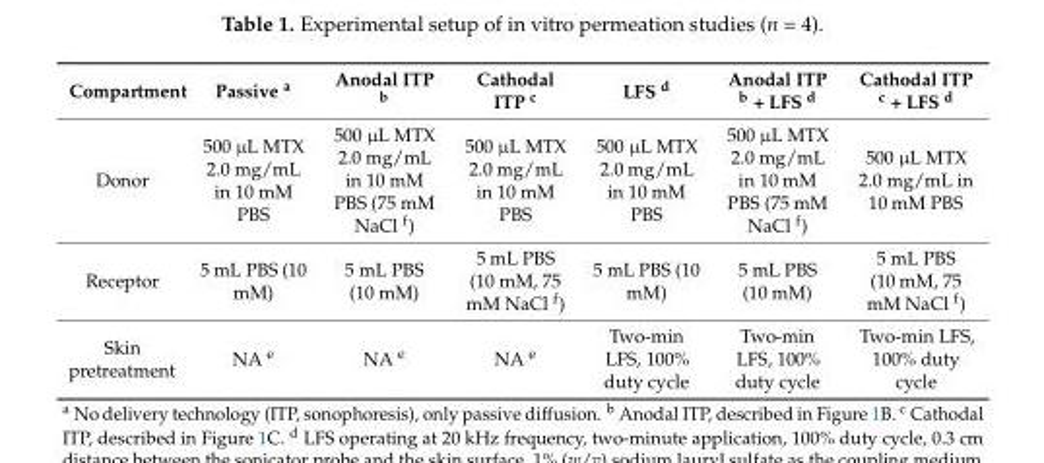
<table><thead><tr><td>Compartment</td><td>Passive <sup>a</sup></td><td>Anodal ITP <sup>b</sup></td><td>Cathodal ITP <sup>c</sup></td><td>LFS <sup>d</sup></td><td>Anodal ITP <sup>b</sup> + LFS <sup>d</sup></td><td>Cathodal ITP <sup>c</sup> + LFS <sup>d</sup></td></tr></thead><tbody><tr><td>Donor</td><td>500 µL MTX 2.0 mg/mL in 10 mM PBS</td><td>500 µL MTX 2.0 mg/mL in 10 mM PBS (75 mM NaCl <sup>f</sup>)</td><td>500 µL MTX 2.0 mg/mL in 10 mM PBS</td><td>500 µL MTX 2.0 mg/mL in 10 mM PBS</td><td>500 µL MTX 2.0 mg/mL in 10 mM PBS (75 mM NaCl <sup>f</sup>)</td><td>500 µL MTX 2.0 mg/mL in 10 mM PBS</td></tr><tr><td>Receptor</td><td>5 mL PBS (10 mM)</td><td>5 mL PBS (10 mM)</td><td>5 mL PBS (10 mM, 75 mM NaCl <sup>f</sup>)</td><td>5 mL PBS (10 mM)</td><td>5 mL PBS (10 mM)</td><td>5 mL PBS (10 mM, 75 mM NaCl <sup>f</sup>)</td></tr><tr><td>Skin pretreatment</td><td>NA <sup>e</sup></td><td>NA <sup>e</sup></td><td>NA <sup>e</sup></td><td>Two-min LFS, 100% duty cycle</td><td>Two-min LFS, 100% duty cycle</td><td>Two-min LFS, 100% duty cycle</td></tr></tbody></table>